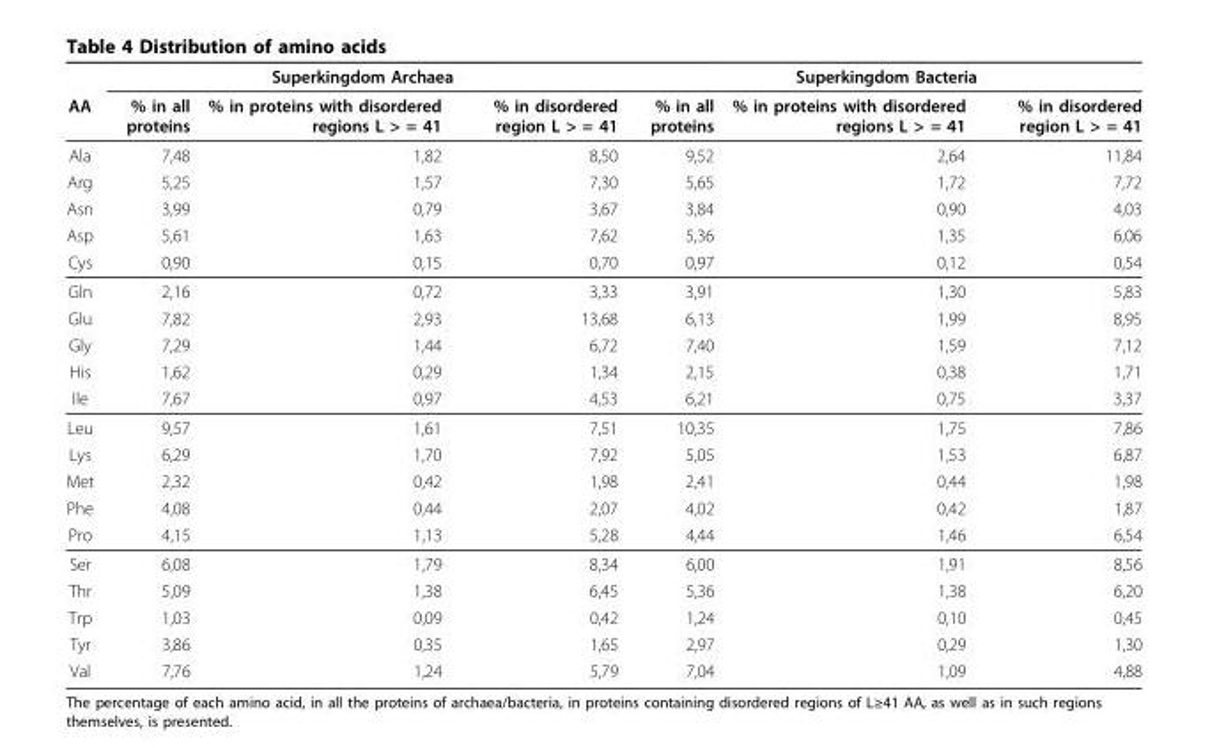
<table><thead><tr><td rowspan="2">AA</td><td colspan="3">Superkingdom Archaea</td><td colspan="3">Superkingdom Bacteria</td></tr><tr><td>% in all proteins</td><td>% in proteins with disordered regions L &gt; = 41</td><td>% in disordered region L &gt; = 41</td><td>% in all proteins</td><td>% in proteins with disordered regions L &gt; = 41</td><td>% in disordered region L &gt; = 41</td></tr></thead><tbody><tr><td>Ala</td><td>7,48</td><td>1,82</td><td>8,50</td><td>9,52</td><td>2,64</td><td>11,84</td></tr><tr><td>Arg</td><td>5,25</td><td>1,57</td><td>7,30</td><td>5,65</td><td>1,72</td><td>7,72</td></tr><tr><td>Asn</td><td>3,99</td><td>0,79</td><td>3,67</td><td>3,84</td><td>0,90</td><td>4,03</td></tr><tr><td>Asp</td><td>5,61</td><td>1,63</td><td>7,62</td><td>5,36</td><td>1,35</td><td>6,06</td></tr><tr><td>Cys</td><td>0,90</td><td>0,15</td><td>0,70</td><td>0,97</td><td>0,12</td><td>0,54</td></tr><tr><td>Gln</td><td>2,16</td><td>0,72</td><td>3,33</td><td>3,91</td><td>1,30</td><td>5,83</td></tr><tr><td>Glu</td><td>7,82</td><td>2,93</td><td>13,68</td><td>6,13</td><td>1,99</td><td>8,95</td></tr><tr><td>Gly</td><td>7,29</td><td>1,44</td><td>6,72</td><td>7,40</td><td>1,59</td><td>7,12</td></tr><tr><td>His</td><td>1,62</td><td>0,29</td><td>1,34</td><td>2,15</td><td>0,38</td><td>1,71</td></tr><tr><td>Ile</td><td>7,67</td><td>0,97</td><td>4,53</td><td>6,21</td><td>0,75</td><td>3,37</td></tr><tr><td>Leu</td><td>9,57</td><td>1,61</td><td>7,51</td><td>10,35</td><td>1,75</td><td>7,86</td></tr><tr><td>Lys</td><td>6,29</td><td>1,70</td><td>7,92</td><td>5,05</td><td>1,53</td><td>6,87</td></tr><tr><td>Met</td><td>2,32</td><td>0,42</td><td>1,98</td><td>2,41</td><td>0,44</td><td>1,98</td></tr><tr><td>Phe</td><td>4,08</td><td>0,44</td><td>2,07</td><td>4,02</td><td>0,42</td><td>1,87</td></tr><tr><td>Pro</td><td>4,15</td><td>1,13</td><td>5,28</td><td>4,44</td><td>1,46</td><td>6,54</td></tr><tr><td>Ser</td><td>6,08</td><td>1,79</td><td>8,34</td><td>6,00</td><td>1,91</td><td>8,56</td></tr><tr><td>Thr</td><td>5,09</td><td>1,38</td><td>6,45</td><td>5,36</td><td>1,38</td><td>6,20</td></tr><tr><td>Trp</td><td>1,03</td><td>0,09</td><td>0,42</td><td>1,24</td><td>0,10</td><td>0,45</td></tr><tr><td>Tyr</td><td>3,86</td><td>0,35</td><td>1,65</td><td>2,97</td><td>0,29</td><td>1,30</td></tr><tr><td>Val</td><td>7,76</td><td>1,24</td><td>5,79</td><td>7,04</td><td>1,09</td><td>4,88</td></tr></tbody></table>